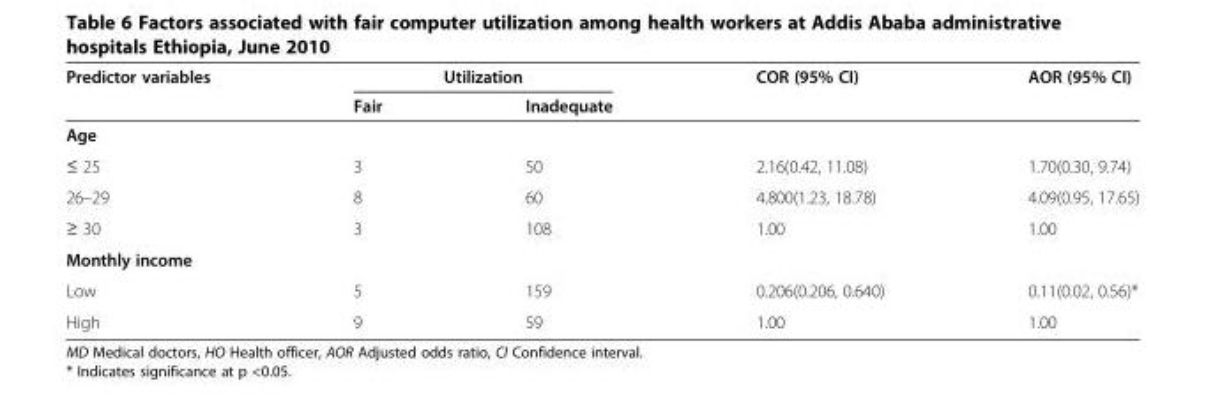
<table><thead><tr><td rowspan="2">Predictor variables</td><td colspan="2">Utilization</td><td rowspan="2">COR (95% CI)</td><td rowspan="2">AOR (95% CI)</td></tr><tr><td>Fair</td><td>Inadequate</td></tr></thead><tbody><tr><td colspan="5">Age</td></tr><tr><td>≤ 25</td><td>3</td><td>50</td><td>2.16(0.42, 11.08)</td><td>1.70(0.30, 9.74)</td></tr><tr><td>26–29</td><td>8</td><td>60</td><td>4.800(1.23, 18.78)</td><td>4.09(0.95, 17.65)</td></tr><tr><td>≥ 30</td><td>3</td><td>108</td><td>1.00</td><td>1.00</td></tr><tr><td colspan="5">Monthly income</td></tr><tr><td>Low</td><td>5</td><td>159</td><td>0.206(0.206, 0.640)</td><td>0.11(0.02, 0.56)*</td></tr><tr><td>High</td><td>9</td><td>59</td><td>1.00</td><td>1.00</td></tr></tbody></table>